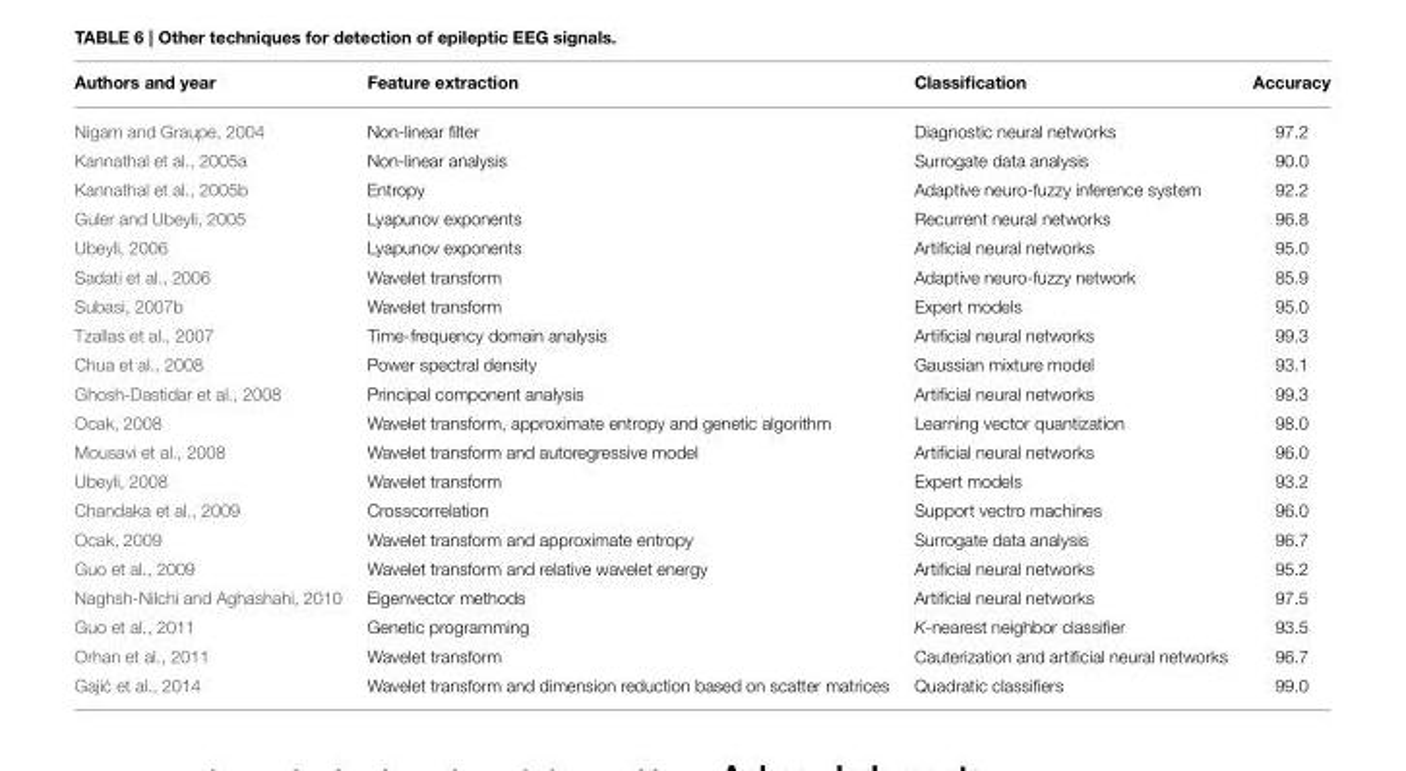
<table><thead><tr><td>Authors and year</td><td>Feature extraction</td><td>Classification</td><td>Accuracy</td></tr></thead><tbody><tr><td>Nigam and Graupe, 2004</td><td>Non-linear filter</td><td>Diagnostic neural networks</td><td>97.2</td></tr><tr><td>Kannathal et al., 2005a</td><td>Non-linear analysis</td><td>Surrogate data analysis</td><td>90.0</td></tr><tr><td>Kannathal et al., 2005b</td><td>Entropy</td><td>Adaptive neuro-fuzzy inference system</td><td>92.2</td></tr><tr><td>Guler and Ubeyli, 2005</td><td>Lyapunov exponents</td><td>Recurrent neural networks</td><td>96.8</td></tr><tr><td>Ubeyli, 2006</td><td>Lyapunov exponents</td><td>Artificial neural networks</td><td>95.0</td></tr><tr><td>Sadati et al., 2006</td><td>Wavelet transform</td><td>Adaptive neuro-fuzzy network</td><td>85.9</td></tr><tr><td>Subasi, 2007b</td><td>Wavelet transform</td><td>Expert models</td><td>95.0</td></tr><tr><td>Tzallas et al., 2007</td><td>Time-frequency domain analysis</td><td>Artificial neural networks</td><td>99.3</td></tr><tr><td>Chua et al., 2008</td><td>Power spectral density</td><td>Gaussian mixture model</td><td>93.1</td></tr><tr><td>Ghosh-Dastidar et al., 2008</td><td>Principal component analysis</td><td>Artificial neural networks</td><td>99.3</td></tr><tr><td>Ocak, 2008</td><td>Wavelet transform, approximate entropy and genetic algorithm</td><td>Learning vector quantization</td><td>98.0</td></tr><tr><td>Mousavi et al., 2008</td><td>Wavelet transform and autoregressive model</td><td>Artificial neural networks</td><td>96.0</td></tr><tr><td>Ubeyli, 2008</td><td>Wavelet transform</td><td>Expert models</td><td>93.2</td></tr><tr><td>Chandaka et al., 2009</td><td>Crosscorrelation</td><td>Support vectro machines</td><td>96.0</td></tr><tr><td>Ocak, 2009</td><td>Wavelet transform and approximate entropy</td><td>Surrogate data analysis</td><td>96.7</td></tr><tr><td>Guo et al., 2009</td><td>Wavelet transform and relative wavelet energy</td><td>Artificial neural networks</td><td>95.2</td></tr><tr><td>Naghsh-Nilchi and Aghashahi, 2010</td><td>Eigenvector methods</td><td>Artificial neural networks</td><td>97.5</td></tr><tr><td>Guo et al., 2011</td><td>Genetic programming</td><td>K-nearest neighbor classifier</td><td>93.5</td></tr><tr><td>Orhan et al., 2011</td><td>Wavelet transform</td><td>Cauterization and artificial neural networks</td><td>96.7</td></tr><tr><td>Gaji ´c et al., 2014</td><td>Wavelet transform and dimension reduction based on scatter matrices</td><td>Quadratic classifiers</td><td>99.0</td></tr></tbody></table>